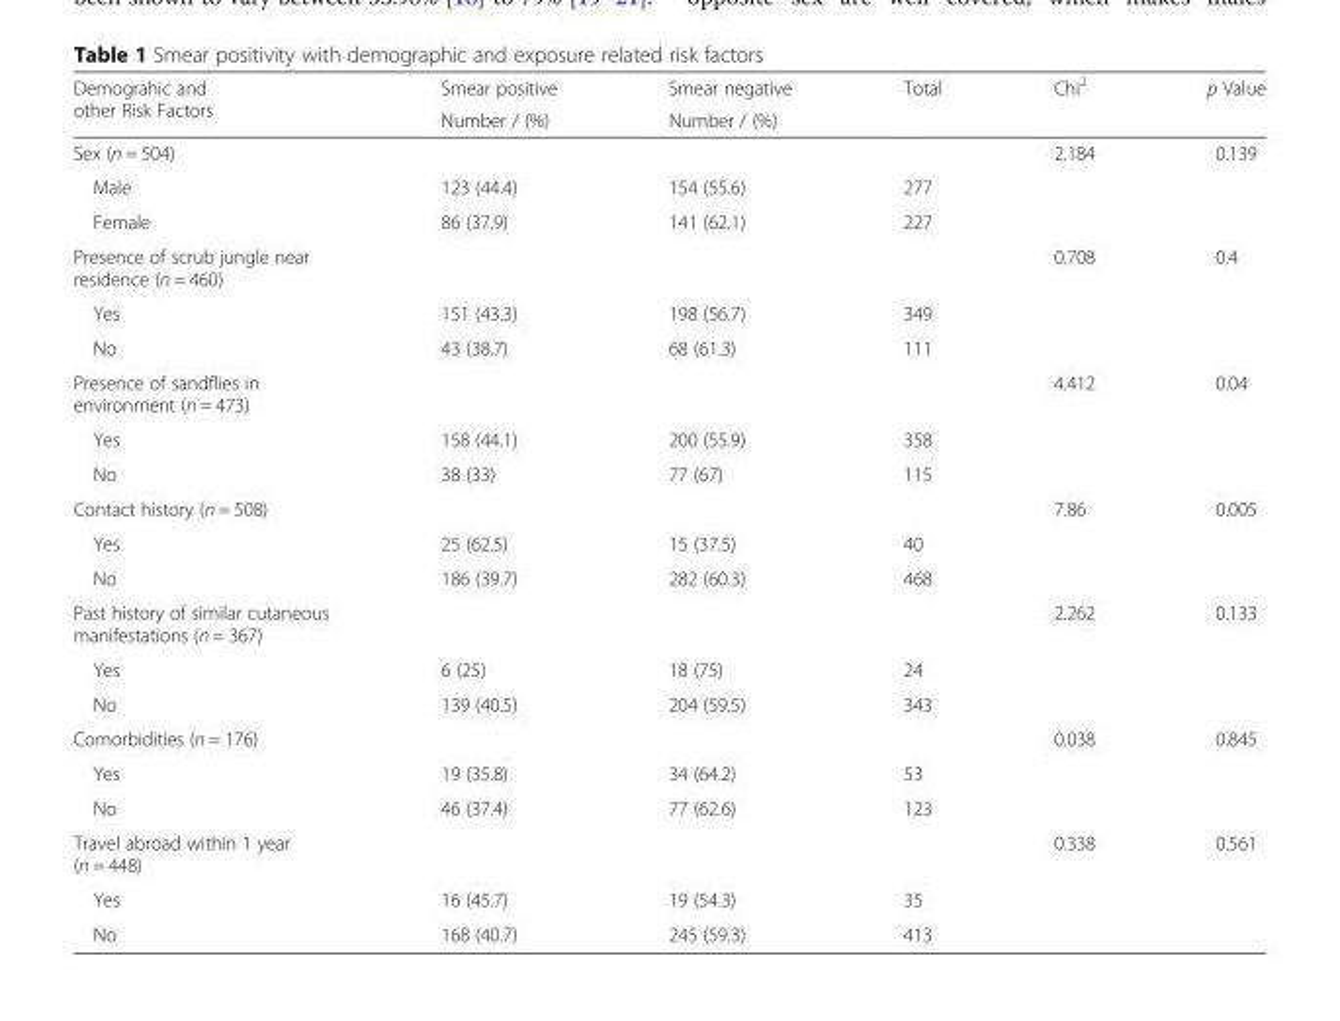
<table><thead><tr><td rowspan="2">Demograhic and other Risk Factors</td><td rowspan="2">Smear positive Number / (%)</td><td rowspan="2">Smear negative Number / (%)</td><td rowspan="2">Total</td><td rowspan="2">Chi<sup>2</sup></td><td rowspan="2">p Value</td></tr><tr></tr></thead><tbody><tr><td>Sex (n = 504)</td><td colspan="3"></td><td>2.184</td><td>0.139</td></tr><tr><td>Male</td><td>123 (44.4)</td><td>154 (55.6)</td><td>277</td><td></td><td></td></tr><tr><td>Female</td><td>86 (37.9)</td><td>141 (62.1)</td><td>227</td><td></td><td></td></tr><tr><td>Presence of scrub jungle near residence (n = 460)</td><td colspan="3"></td><td>0.708</td><td>0.4</td></tr><tr><td>Yes</td><td>151 (43.3)</td><td>198 (56.7)</td><td>349</td><td></td><td></td></tr><tr><td>No</td><td>43 (38.7)</td><td>68 (61.3)</td><td>111</td><td></td><td></td></tr><tr><td>Presence of sandflies in environment (n = 473)</td><td colspan="3"></td><td>4.412</td><td>0.04</td></tr><tr><td>Yes</td><td>158 (44.1)</td><td>200 (55.9)</td><td>358</td><td></td><td></td></tr><tr><td>No</td><td>38 (33)</td><td>77 (67)</td><td>115</td><td></td><td></td></tr><tr><td>Contact history (n = 508)</td><td colspan="3"></td><td>7.86</td><td>0.005</td></tr><tr><td>Yes</td><td>25 (62.5)</td><td>15 (37.5)</td><td>40</td><td></td><td></td></tr><tr><td>No</td><td>186 (39.7)</td><td>282 (60.3)</td><td>468</td><td></td><td></td></tr><tr><td>Past history of similar cutaneous manifestations (n = 367)</td><td colspan="3"></td><td>2.262</td><td>0.133</td></tr><tr><td>Yes</td><td>6 (25)</td><td>18 (75)</td><td>24</td><td></td><td></td></tr><tr><td>No</td><td>139 (40.5)</td><td>204 (59.5)</td><td>343</td><td></td><td></td></tr><tr><td>Comorbidities (n = 176)</td><td colspan="3"></td><td>0.038</td><td>0.845</td></tr><tr><td>Yes</td><td>19 (35.8)</td><td>34 (64.2)</td><td>53</td><td></td><td></td></tr><tr><td>No</td><td>46 (37.4)</td><td>77 (62.6)</td><td>123</td><td></td><td></td></tr><tr><td>Travel abroad within 1 year (n = 448)</td><td colspan="3"></td><td>0.338</td><td>0.561</td></tr><tr><td>Yes</td><td>16 (45.7)</td><td>19 (54.3)</td><td>35</td><td></td><td></td></tr><tr><td>No</td><td>168 (40.7)</td><td>245 (59.3)</td><td>413</td><td></td><td></td></tr></tbody></table>